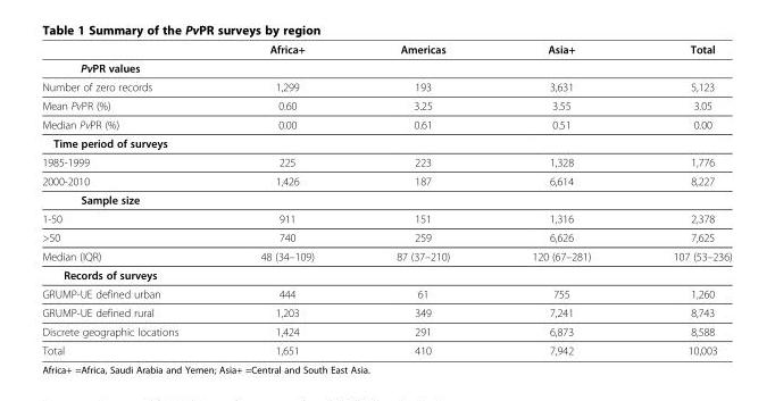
<table><thead><tr><td></td><td>Africa+</td><td>Americas</td><td>Asia+</td><td>Total</td></tr></thead><tbody><tr><td colspan="5">PvPR values</td></tr><tr><td>Number of zero records</td><td>1,299</td><td>193</td><td>3,631</td><td>5,123</td></tr><tr><td>Mean PvPR (%)</td><td>0.60</td><td>3.25</td><td>3.55</td><td>3.05</td></tr><tr><td>Median PvPR (%)</td><td>0.00</td><td>0.61</td><td>0.51</td><td>0.00</td></tr><tr><td colspan="5">Time period of surveys</td></tr><tr><td>1985-1999</td><td>225</td><td>223</td><td>1,328</td><td>1,776</td></tr><tr><td>2000-2010</td><td>1,426</td><td>187</td><td>6,614</td><td>8,227</td></tr><tr><td colspan="5">Sample size</td></tr><tr><td>1-50</td><td>911</td><td>151</td><td>1,316</td><td>2,378</td></tr><tr><td>&gt;50</td><td>740</td><td>259</td><td>6,626</td><td>7,625</td></tr><tr><td>Median (IQR)</td><td>48 (34–109)</td><td>87 (37–210)</td><td>120 (67–281)</td><td>107 (53–236)</td></tr><tr><td colspan="5">Records of surveys</td></tr><tr><td>GRUMP-UE defined urban</td><td>444</td><td>61</td><td>755</td><td>1,260</td></tr><tr><td>GRUMP-UE defined rural</td><td>1,203</td><td>349</td><td>7,241</td><td>8,743</td></tr><tr><td>Discrete geographic locations</td><td>1,424</td><td>291</td><td>6,873</td><td>8,588</td></tr><tr><td>Total</td><td>1,651</td><td>410</td><td>7,942</td><td>10,003</td></tr></tbody></table>